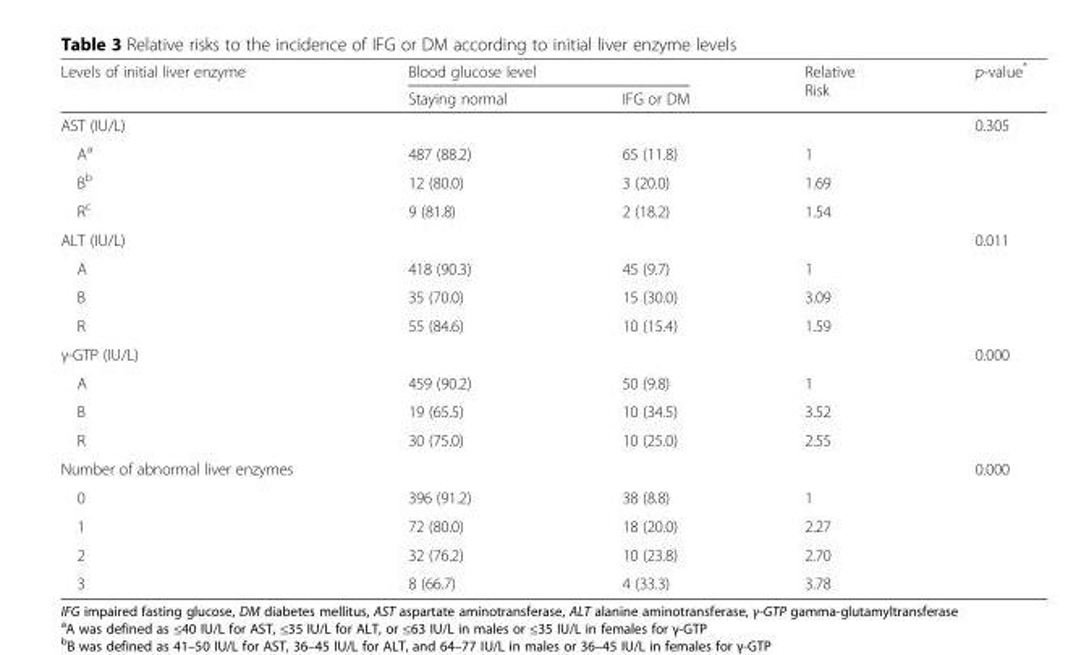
<table><thead><tr><td rowspan="2">Levels of initial liver enzyme</td><td colspan="2">Blood glucose level</td><td rowspan="2">Relative Risk</td><td rowspan="2">p-value*</td></tr><tr><td>Staying normal</td><td>IFG or DM</td></tr></thead><tbody><tr><td>AST (IU/L)</td><td></td><td></td><td></td><td>0.305</td></tr><tr><td>A<sup>a</sup></td><td>487 (88.2)</td><td>65 (11.8)</td><td>1</td><td></td></tr><tr><td>B<sup>b</sup></td><td>12 (80.0)</td><td>3 (20.0)</td><td>1.69</td><td></td></tr><tr><td>R<sup>c</sup></td><td>9 (81.8)</td><td>2 (18.2)</td><td>1.54</td><td></td></tr><tr><td>ALT (IU/L)</td><td></td><td></td><td></td><td>0.011</td></tr><tr><td>A</td><td>418 (90.3)</td><td>45 (9.7)</td><td>1</td><td></td></tr><tr><td>B</td><td>35 (70.0)</td><td>15 (30.0)</td><td>3.09</td><td></td></tr><tr><td>R</td><td>55 (84.6)</td><td>10 (15.4)</td><td>1.59</td><td></td></tr><tr><td>γ-GTP (IU/L)</td><td></td><td></td><td></td><td>0.000</td></tr><tr><td>A</td><td>459 (90.2)</td><td>50 (9.8)</td><td>1</td><td></td></tr><tr><td>B</td><td>19 (65.5)</td><td>10 (34.5)</td><td>3.52</td><td></td></tr><tr><td>R</td><td>30 (75.0)</td><td>10 (25.0)</td><td>2.55</td><td></td></tr><tr><td>Number of abnormal liver enzymes</td><td></td><td></td><td></td><td>0.000</td></tr><tr><td>0</td><td>396 (91.2)</td><td>38 (8.8)</td><td>1</td><td></td></tr><tr><td>1</td><td>72 (80.0)</td><td>18 (20.0)</td><td>2.27</td><td></td></tr><tr><td>2</td><td>32 (76.2)</td><td>10 (23.8)</td><td>2.70</td><td></td></tr><tr><td>3</td><td>8 (66.7)</td><td>4 (33.3)</td><td>3.78</td><td></td></tr></tbody></table>